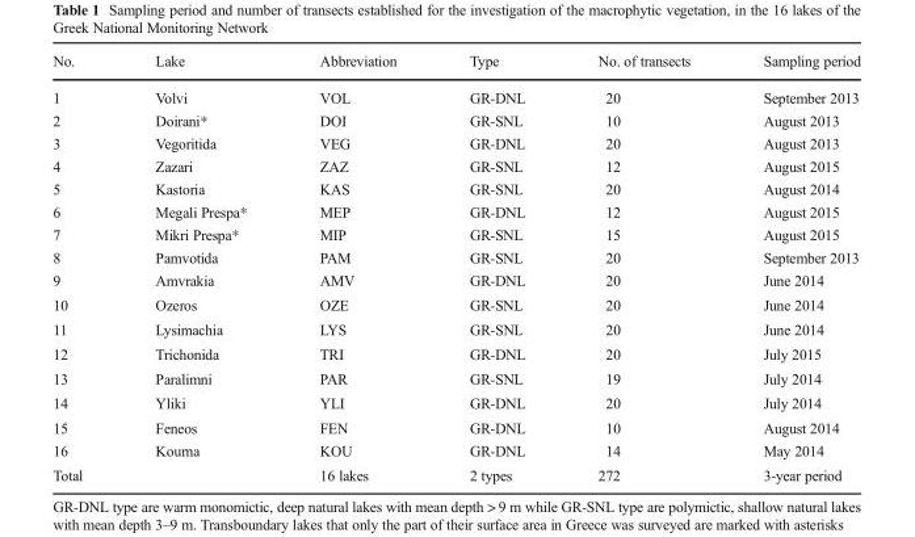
<table><thead><tr><td>No.</td><td>Lake</td><td>Abbreviation</td><td>Type</td><td>No. of transects</td><td>Sampling period</td></tr></thead><tbody><tr><td>1</td><td>Volvi</td><td>VOL</td><td>GR-DNL</td><td>20</td><td>September 2013</td></tr><tr><td>2</td><td>Doirani*</td><td>DOI</td><td>GR-SNL</td><td>10</td><td>August 2013</td></tr><tr><td>3</td><td>Vegoritida</td><td>VEG</td><td>GR-DNL</td><td>20</td><td>August 2013</td></tr><tr><td>4</td><td>Zazari</td><td>ZAZ</td><td>GR-SNL</td><td>12</td><td>August 2015</td></tr><tr><td>5</td><td>Kastoria</td><td>KAS</td><td>GR-SNL</td><td>20</td><td>August 2014</td></tr><tr><td>6</td><td>Megali Prespa*</td><td>MEP</td><td>GR-DNL</td><td>12</td><td>August 2015</td></tr><tr><td>7</td><td>Mikri Prespa*</td><td>MIP</td><td>GR-SNL</td><td>15</td><td>August 2015</td></tr><tr><td>8</td><td>Pamvotida</td><td>PAM</td><td>GR-SNL</td><td>20</td><td>September 2013</td></tr><tr><td>9</td><td>Amvrakia</td><td>AMV</td><td>GR-DNL</td><td>20</td><td>June 2014</td></tr><tr><td>10</td><td>Ozeros</td><td>OZE</td><td>GR-SNL</td><td>20</td><td>June 2014</td></tr><tr><td>11</td><td>Lysimachia</td><td>LYS</td><td>GR-SNL</td><td>20</td><td>June 2014</td></tr><tr><td>12</td><td>Trichonida</td><td>TRI</td><td>GR-DNL</td><td>20</td><td>July 2015</td></tr><tr><td>13</td><td>Paralimni</td><td>PAR</td><td>GR-SNL</td><td>19</td><td>July 2014</td></tr><tr><td>14</td><td>Yliki</td><td>YLI</td><td>GR-DNL</td><td>20</td><td>July 2014</td></tr><tr><td>15</td><td>Feneos</td><td>FEN</td><td>GR-DNL</td><td>10</td><td>August 2014</td></tr><tr><td>16</td><td>Kourna</td><td>KOU</td><td>GR-DNL</td><td>14</td><td>May 2014</td></tr><tr><td>Total</td><td></td><td>16 lakes</td><td>2 types</td><td>272</td><td>3-year period</td></tr></tbody></table>